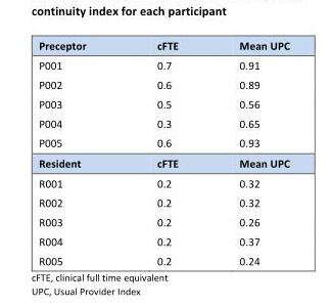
<table><thead><tr><td>Preceptor</td><td>cFTE</td><td>Mean UPC</td></tr></thead><tbody><tr><td>P001</td><td>0.7</td><td>0.91</td></tr><tr><td>P002</td><td>0.6</td><td>0.89</td></tr><tr><td>P003</td><td>0.5</td><td>0.56</td></tr><tr><td>P004</td><td>0.3</td><td>0.65</td></tr><tr><td>P005</td><td>0.6</td><td>0.93</td></tr><tr><td>Resident</td><td>cFTE</td><td>Mean UPC</td></tr><tr><td>R001</td><td>0.2</td><td>0.32</td></tr><tr><td>R002</td><td>0.2</td><td>0.32</td></tr><tr><td>R003</td><td>0.2</td><td>0.26</td></tr><tr><td>R004</td><td>0.2</td><td>0.37</td></tr><tr><td>R005</td><td>0.2</td><td>0.24</td></tr></tbody></table>